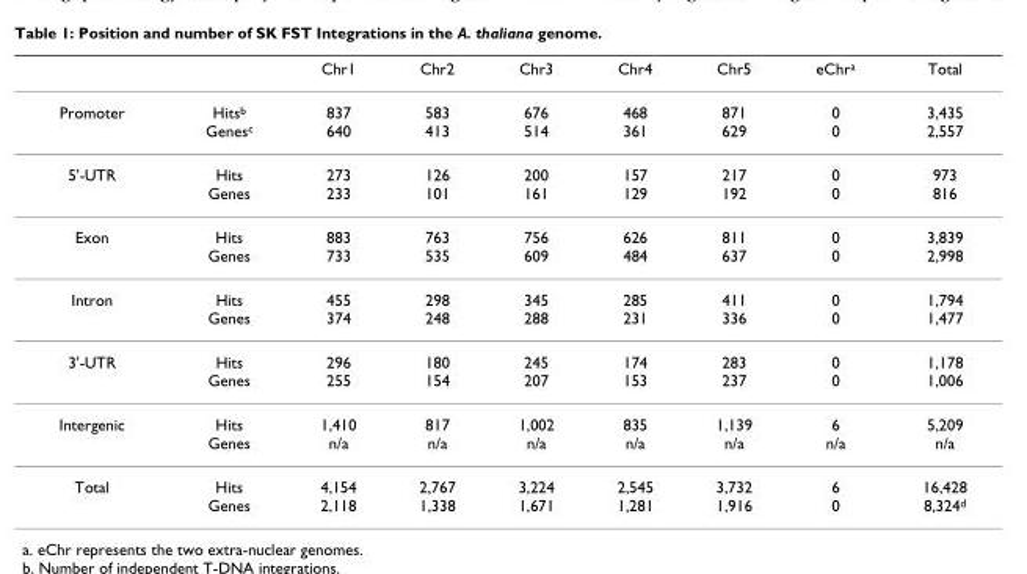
<table><thead><tr><td></td><td></td><td>Chr1</td><td>Chr2</td><td>Chr3</td><td>Chr4</td><td>Chr5</td><td>eChr<sup>a</sup></td><td>Total</td></tr></thead><tbody><tr><td>Promoter</td><td>Hits<sup>b</sup> Genes<sup>c</sup></td><td>837 640</td><td>583 413</td><td>676 514</td><td>468 361</td><td>871 629</td><td>0 0</td><td>3,435 2,557</td></tr><tr><td>5&#x27;-UTR</td><td>Hits Genes</td><td>273 233</td><td>126 101</td><td>200 161</td><td>157 129</td><td>217 192</td><td>0 0</td><td>973 816</td></tr><tr><td>Exon</td><td>Hits Genes</td><td>883 733</td><td>763 535</td><td>756 609</td><td>626 484</td><td>811 637</td><td>0 0</td><td>3,839 2,998</td></tr><tr><td>Intron</td><td>Hits Genes</td><td>455 374</td><td>298 248</td><td>345 288</td><td>285 231</td><td>411 336</td><td>0 0</td><td>1,794 1,477</td></tr><tr><td>3&#x27;-UTR</td><td>Hits Genes</td><td>296 255</td><td>180 154</td><td>245 207</td><td>174 153</td><td>283 237</td><td>0 0</td><td>1,178 1,006</td></tr><tr><td>Intergenic</td><td>Hits Genes</td><td>1,410 n/a</td><td>817 n/a</td><td>1,002 n/a</td><td>835 n/a</td><td>1,139 n/a</td><td>6 n/a</td><td>5,209 n/a</td></tr><tr><td>Total</td><td>Hits Genes</td><td>4,154 2,118</td><td>2,767 1,338</td><td>3,224 1,671</td><td>2,545 1,281</td><td>3,732 1,916</td><td>6 0</td><td>16,428 8,324<sup>d</sup></td></tr></tbody></table>